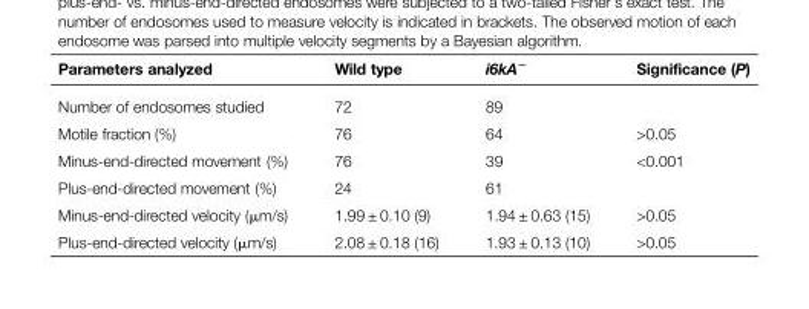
<table><thead><tr><td>Parameters analyzed</td><td>Wild type</td><td>i6kA<sup>−</sup></td><td>Significance (P)</td></tr></thead><tbody><tr><td>Number of endosomes studied</td><td>72</td><td>89</td><td></td></tr><tr><td>Motile fraction (%)</td><td>76</td><td>64</td><td>&gt;0.05</td></tr><tr><td>Minus-end-directed movement (%)</td><td>76</td><td>39</td><td rowspan="2">&lt;0.001</td></tr><tr><td>Plus-end-directed movement (%)</td><td>24</td><td>61</td></tr><tr><td>Minus-end-directed velocity (µm/s)</td><td>1.99 ± 0.10 (9)</td><td>1.94 ± 0.63 (15)</td><td>&gt;0.05</td></tr><tr><td>Plus-end-directed velocity (µm/s)</td><td>2.08 ± 0.18 (16)</td><td>1.93 ± 0.13 (10)</td><td>&gt;0.05</td></tr></tbody></table>